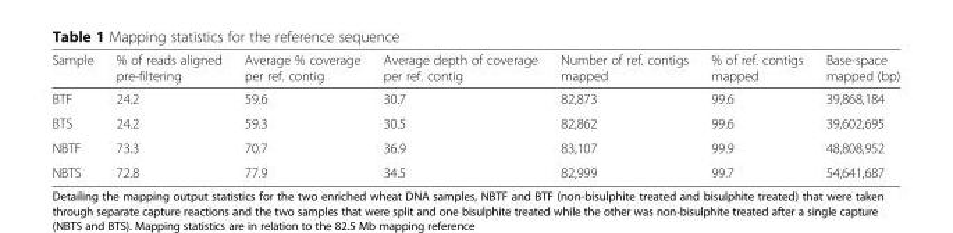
<table><thead><tr><td>Sample</td><td>% of reads aligned pre-filtering</td><td>Average % coverage per ref. contig</td><td>Average depth of coverage per ref. contig</td><td>Number of ref. contigs mapped</td><td>% of ref. contigs mapped</td><td>Base-space mapped (bp)</td></tr></thead><tbody><tr><td>BTF</td><td>24.2</td><td>59.6</td><td>30.7</td><td>82,873</td><td>99.6</td><td>39,868,184</td></tr><tr><td>BTS</td><td>24.2</td><td>59.3</td><td>30.5</td><td>82,862</td><td>99.6</td><td>39,602,695</td></tr><tr><td>NBTF</td><td>73.3</td><td>70.7</td><td>36.9</td><td>83,107</td><td>99.9</td><td>48,808,952</td></tr><tr><td>NBTS</td><td>72.8</td><td>77.9</td><td>34.5</td><td>82,999</td><td>99.7</td><td>54,641,687</td></tr></tbody></table>